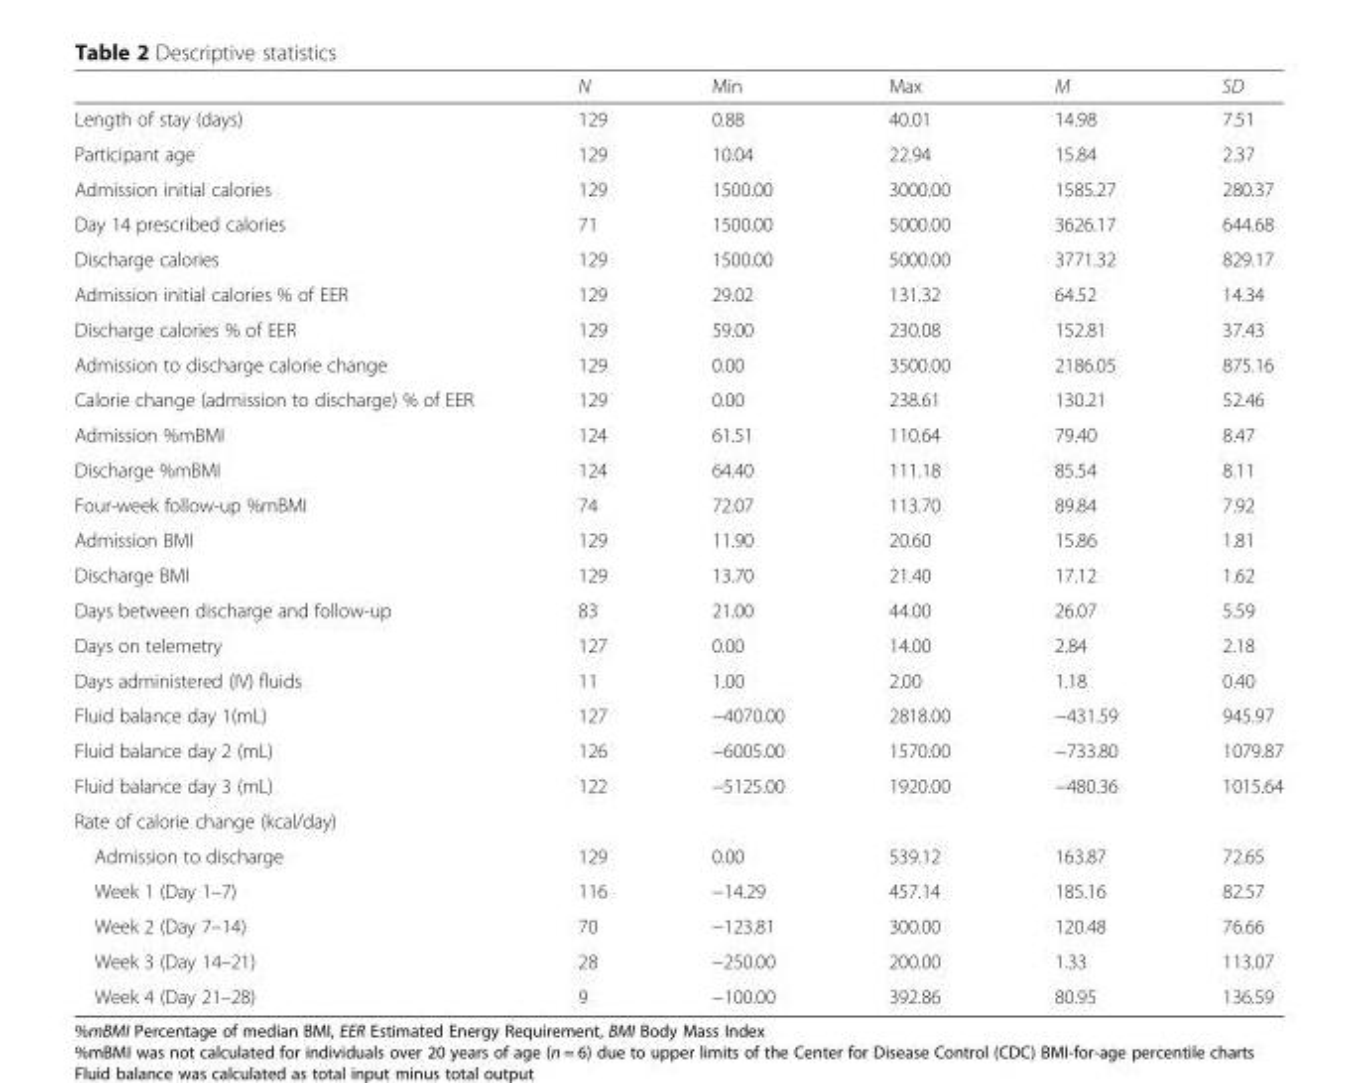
<table><thead><tr><td></td><td>N</td><td>Min</td><td>Max</td><td>M</td><td>SD</td></tr></thead><tbody><tr><td>Length of stay (days)</td><td>129</td><td>0.88</td><td>40.01</td><td>14.98</td><td>7.51</td></tr><tr><td>Participant age</td><td>129</td><td>10.04</td><td>22.94</td><td>15.84</td><td>2.37</td></tr><tr><td>Admission initial calories</td><td>129</td><td>1500.00</td><td>3000.00</td><td>1585.27</td><td>280.37</td></tr><tr><td>Day 14 prescribed calories</td><td>71</td><td>1500.00</td><td>5000.00</td><td>3626.17</td><td>644.68</td></tr><tr><td>Discharge calories</td><td>129</td><td>1500.00</td><td>5000.00</td><td>3771.32</td><td>829.17</td></tr><tr><td>Admission initial calories % of EER</td><td>129</td><td>29.02</td><td>131.32</td><td>64.52</td><td>14.34</td></tr><tr><td>Discharge calories % of EER</td><td>129</td><td>59.00</td><td>230.08</td><td>152.81</td><td>37.43</td></tr><tr><td>Admission to discharge calorie change</td><td>129</td><td>0.00</td><td>3500.00</td><td>2186.05</td><td>875.16</td></tr><tr><td>Calorie change (admission to discharge) % of EER</td><td>129</td><td>0.00</td><td>238.61</td><td>130.21</td><td>52.46</td></tr><tr><td>Admission %mBMI</td><td>124</td><td>61.51</td><td>110.64</td><td>79.40</td><td>8.47</td></tr><tr><td>Discharge %mBMI</td><td>124</td><td>64.40</td><td>111.18</td><td>85.54</td><td>8.11</td></tr><tr><td>Four-week follow-up %mBMI</td><td>74</td><td>72.07</td><td>113.70</td><td>89.84</td><td>7.92</td></tr><tr><td>Admission BMI</td><td>129</td><td>11.90</td><td>20.60</td><td>15.86</td><td>1.81</td></tr><tr><td>Discharge BMI</td><td>129</td><td>13.70</td><td>21.40</td><td>17.12</td><td>1.62</td></tr><tr><td>Days between discharge and follow-up</td><td>83</td><td>21.00</td><td>44.00</td><td>26.07</td><td>5.59</td></tr><tr><td>Days on telemetry</td><td>127</td><td>0.00</td><td>14.00</td><td>2.84</td><td>2.18</td></tr><tr><td>Days administered (IV) fluids</td><td>11</td><td>1.00</td><td>2.00</td><td>1.18</td><td>0.40</td></tr><tr><td>Fluid balance day 1(mL)</td><td>127</td><td>−4070.00</td><td>2818.00</td><td>−431.59</td><td>945.97</td></tr><tr><td>Fluid balance day 2 (mL)</td><td>126</td><td>−6005.00</td><td>1570.00</td><td>−733.80</td><td>1079.87</td></tr><tr><td>Fluid balance day 3 (mL)</td><td>122</td><td>−5125.00</td><td>1920.00</td><td>−480.36</td><td>1015.64</td></tr><tr><td colspan="6">Rate of calorie change (kcal/day)</td></tr><tr><td>Admission to discharge</td><td>129</td><td>0.00</td><td>539.12</td><td>163.87</td><td>72.65</td></tr><tr><td>Week 1 (Day 1–7)</td><td>116</td><td>−14.29</td><td>457.14</td><td>185.16</td><td>82.57</td></tr><tr><td>Week 2 (Day 7–14)</td><td>70</td><td>−123.81</td><td>300.00</td><td>120.48</td><td>76.66</td></tr><tr><td>Week 3 (Day 14–21)</td><td>28</td><td>−250.00</td><td>200.00</td><td>1.33</td><td>113.07</td></tr><tr><td>Week 4 (Day 21–28)</td><td>9</td><td>−100.00</td><td>392.86</td><td>80.95</td><td>136.59</td></tr></tbody></table>